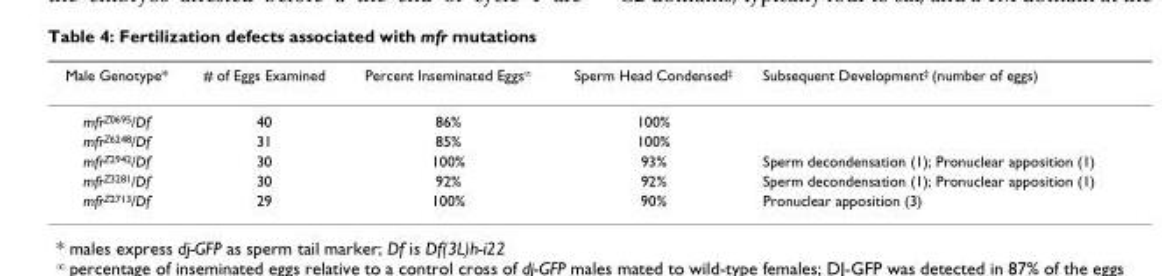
<table><thead><tr><td>Male Genotype*</td><td># of Eggs Examined</td><td>Percent Inseminated Eggs<sup>∞</sup></td><td>Sperm Head Condensed<sup>‡</sup></td><td>Subsequent Development<sup>‡</sup> (number of eggs)</td></tr></thead><tbody><tr><td>mfr<sup>Z0695</sup>/Df</td><td>40</td><td>86%</td><td>100%</td><td></td></tr><tr><td>mfr<sup>Z6248</sup>/Df</td><td>31</td><td>85%</td><td>100%</td><td></td></tr><tr><td>mfr<sup>Z2942</sup>/Df</td><td>30</td><td>100%</td><td>93%</td><td>Sperm decondensation (1); Pronuclear apposition (1)</td></tr><tr><td>mfr<sup>Z3281</sup>/Df</td><td>30</td><td>92%</td><td>92%</td><td>Sperm decondensation (1); Pronuclear apposition (1)</td></tr><tr><td>mfr<sup>Z2713</sup>/Df</td><td>29</td><td>100%</td><td>90%</td><td>Pronuclear apposition (3)</td></tr></tbody></table>